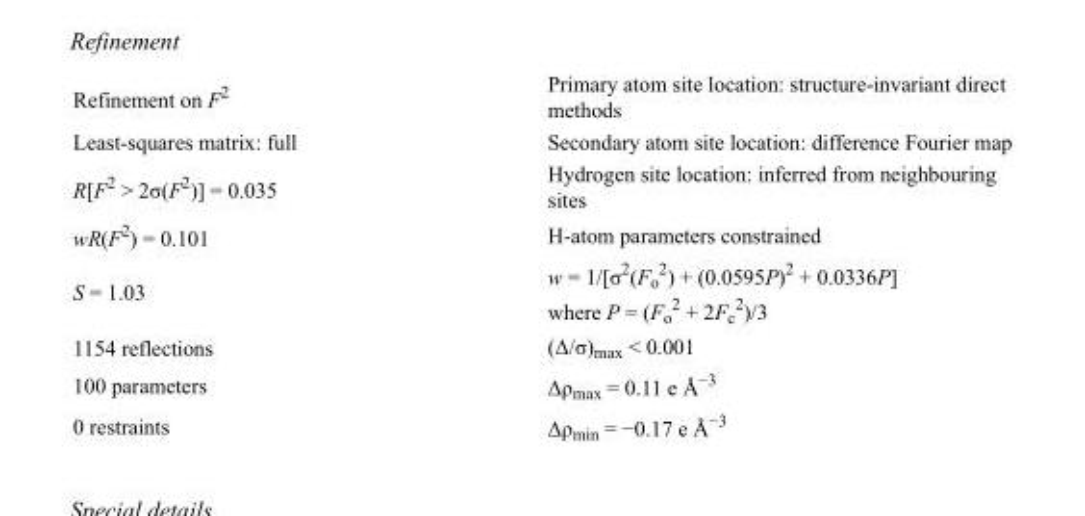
<table><tbody><tr><td>Refinement on F<sup>2</sup></td><td>Primary atom site location: structure-invariant direct methods</td></tr><tr><td>Least-squares matrix: full</td><td>Secondary atom site location: difference Fourier map</td></tr><tr><td>R[F<sup>2</sup> &gt; 2σ(F<sup>2</sup>)] = 0.035</td><td>Hydrogen site location: inferred from neighbouring sites</td></tr><tr><td>wR(F<sup>2</sup>) = 0.101</td><td>H-atom parameters constrained</td></tr><tr><td>S = 1.03</td><td>w = 1/[σ<sup>2</sup>(F<sub>o</sub> <sup>2</sup>) + (0.0595P)<sup>2</sup> + 0.0336P] where P = (F<sub>o</sub> <sup>2</sup> + 2F<sub>c</sub> <sup>2</sup>)/3</td></tr><tr><td>1154 reflections</td><td>(Δ/σ)<sub>max</sub> &lt; 0.001</td></tr><tr><td>100 parameters</td><td>Δρ<sub>max</sub> = 0.11 e Å<sup>−3</sup></td></tr><tr><td>0 restraints</td><td>Δρ<sub>min</sub> = −0.17 e Å<sup>−3</sup></td></tr></tbody></table>